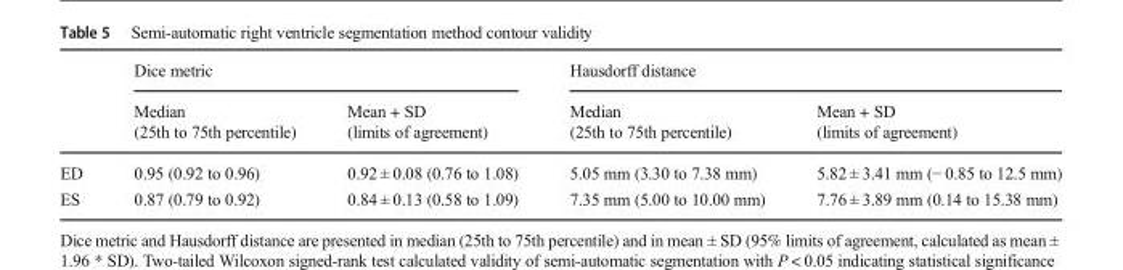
<table><thead><tr><td rowspan="2"></td><td colspan="2">Dice metric</td><td colspan="2">Hausdorff distance</td></tr><tr><td>Median (25th to 75th percentile)</td><td>Mean + SD (limits of agreement)</td><td>Median (25th to 75th percentile)</td><td>Mean + SD (limits of agreement)</td></tr></thead><tbody><tr><td>ED</td><td>0.95 (0.92 to 0.96)</td><td>0.92 ± 0.08 (0.76 to 1.08)</td><td>5.05 mm (3.30 to 7.38 mm)</td><td>5.82 ± 3.41 mm (− 0.85 to 12.5 mm)</td></tr><tr><td>ES</td><td>0.87 (0.79 to 0.92)</td><td>0.84 ± 0.13 (0.58 to 1.09)</td><td>7.35 mm (5.00 to 10.00 mm)</td><td>7.76 ± 3.89 mm (0.14 to 15.38 mm)</td></tr></tbody></table>